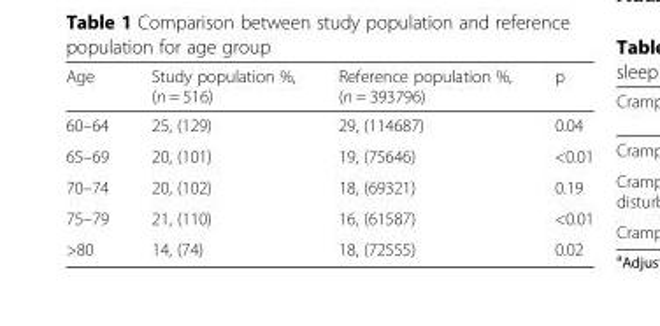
<table><thead><tr><td>Age</td><td>Study population %, (n = 516)</td><td>Reference population %, (n = 393796)</td><td>p</td></tr></thead><tbody><tr><td>60–64</td><td>25, (129)</td><td>29, (114687)</td><td>0.04</td></tr><tr><td>65–69</td><td>20, (101)</td><td>19, (75646)</td><td>&lt;0.01</td></tr><tr><td>70–74</td><td>20, (102)</td><td>18, (69321)</td><td>0.19</td></tr><tr><td>75–79</td><td>21, (110)</td><td>16, (61587)</td><td>&lt;0.01</td></tr><tr><td>&gt;80</td><td>14, (74)</td><td>18, (72555)</td><td>0.02</td></tr></tbody></table>